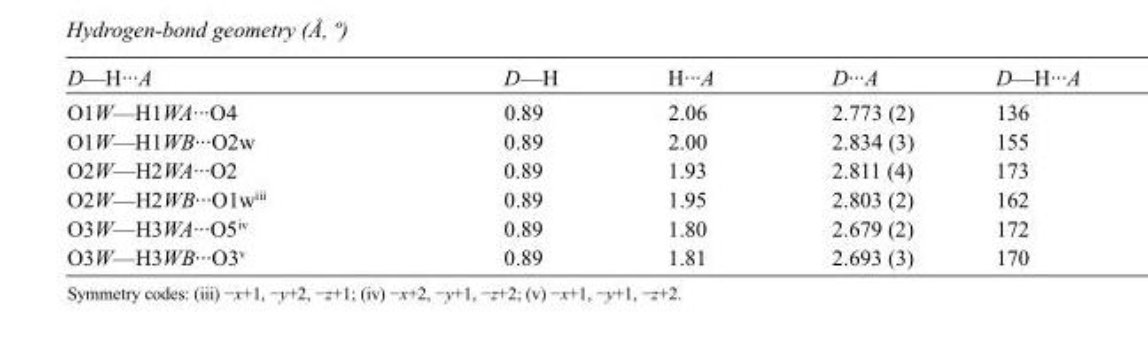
<table><tbody><tr><td>D—H···A</td><td>D—H</td><td>H···A</td><td>D···A</td><td>D—H···A</td></tr><tr><td>O1W—H1WA···O4</td><td>0.89</td><td>2.06</td><td>2.773 (2)</td><td>136</td></tr><tr><td>O1W—H1WB···O2w</td><td>0.89</td><td>2.00</td><td>2.834 (3)</td><td>155</td></tr><tr><td>O2W—H2WA···O2</td><td>0.89</td><td>1.93</td><td>2.811 (4)</td><td>173</td></tr><tr><td>O2W—H2WB···O1w<sup>iii</sup></td><td>0.89</td><td>1.95</td><td>2.803 (2)</td><td>162</td></tr><tr><td>O3W—H3WA···O5<sup>iv</sup></td><td>0.89</td><td>1.80</td><td>2.679 (2)</td><td>172</td></tr><tr><td>O3W—H3WB···O3<sup>v</sup></td><td>0.89</td><td>1.81</td><td>2.693 (3)</td><td>170</td></tr></tbody></table>